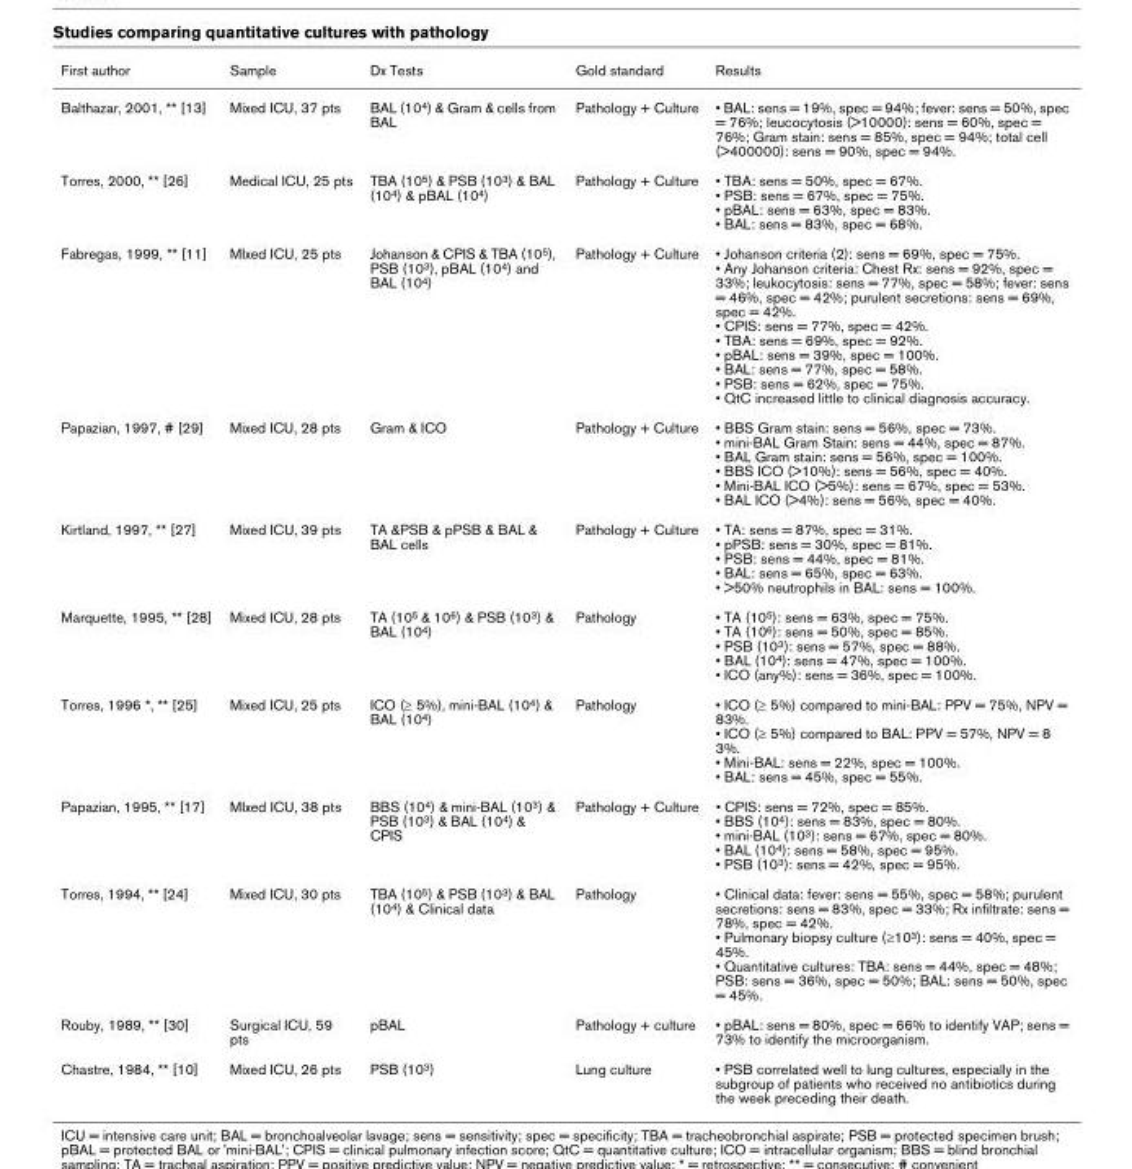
<table><thead><tr><td>First author</td><td>Sample</td><td>Dx Tests</td><td>Gold standard</td><td>Results</td></tr></thead><tbody><tr><td>Balthazar, 2001, ** [13]</td><td>Mixed ICU, 37 pts</td><td>BAL (10<sup>4</sup>) &amp; Gram &amp; cells from BAL</td><td>Pathology + Culture</td><td>• BAL: sens = 19%, spec = 94%; fever: sens = 50%, spec = 76%; leucocytosis (&gt;10000): sens = 60%, spec = 76%; Gram stain: sens = 85%, spec = 94%; total cell (&gt;400000): sens = 90%, spec = 94%.</td></tr><tr><td>Torres, 2000, ** [26]</td><td>Medical ICU, 25 pts</td><td>TBA (10<sup>5</sup>) &amp; PSB (10<sup>3</sup>) &amp; BAL (10<sup>4</sup>) &amp; pBAL (10<sup>4</sup>)</td><td>Pathology + Culture</td><td>• TBA: sens = 50%, spec = 67%. • PSB: sens = 67%, spec = 75%. • pBAL: sens = 63%, spec = 83%. • BAL: sens = 83%, spec = 68%.</td></tr><tr><td>Fabregas, 1999, ** [11]</td><td>MIxed ICU, 25 pts</td><td>Johanson &amp; CPIS &amp; TBA (10<sup>5</sup>), PSB (10<sup>3</sup>), pBAL (10<sup>4</sup>) and BAL (10<sup>4</sup>)</td><td>Pathology + Culture</td><td>• Johanson criteria (2): sens = 69%, spec = 75%. • Any Johanson criteria: Chest Rx: sens = 92%, spec = 33%; leukocytosis: sens = 77%, spec = 58%; fever: sens = 46%, spec = 42%; purulent secretions: sens = 69%, spec = 42%. • CPIS: sens = 77%, spec = 42%. • TBA: sens = 69%, spec = 92%. • pBAL: sens = 39%, spec = 100%. • BAL: sens = 77%, spec = 58%. • PSB: sens = 62%, spec = 75%. • QtC increased little to clinical diagnosis accuracy.</td></tr><tr><td>Papazian, 1997, # [29]</td><td>Mixed ICU, 28 pts</td><td>Gram &amp; ICO</td><td>Pathology + Culture</td><td>• BBS Gram stain: sens = 56%, spec = 73%. • mini-BAL Gram Stain: sens = 44%, spec = 87%. • BAL Gram stain: sens = 56%, spec = 100%. • BBS ICO (&gt;10%): sens = 56%, spec = 40%. • Mini-BAL ICO (&gt;5%): sens = 67%, spec = 53%. • BAL ICO (&gt;4%): sens = 56%, spec = 40%.</td></tr><tr><td>Kirtland, 1997, ** [27]</td><td>Mixed ICU, 39 pts</td><td>TA &amp;PSB &amp; pPSB &amp; BAL &amp; BAL cells</td><td>Pathology + Culture</td><td>• TA: sens = 87%, spec = 31%. • pPSB: sens = 30%, spec = 81%. • PSB: sens = 44%, spec = 81%. • BAL: sens = 65%, spec = 63%. • &gt;50% neutrophils in BAL: sens = 100%.</td></tr><tr><td>Marquette, 1995, ** [28]</td><td>Mixed ICU, 28 pts</td><td>TA (10<sup>5</sup> &amp; 10<sup>6</sup>) &amp; PSB (10<sup>3</sup>) &amp; BAL (10<sup>4</sup>)</td><td>Pathology</td><td>• TA (10<sup>5</sup>): sens = 63%, spec = 75%. • TA (10<sup>6</sup>): sens = 50%, spec = 85%. • PSB (10<sup>3</sup>): sens = 57%, spec = 88%. • BAL (10<sup>4</sup>): sens = 47%, spec = 100%. • ICO (any%): sens = 36%, spec = 100%.</td></tr><tr><td>Torres, 1996 *, ** [25]</td><td>Mixed ICU, 25 pts</td><td>ICO (≥ 5%), mini-BAL (10<sup>4</sup>) &amp; BAL (10<sup>4</sup>)</td><td>Pathology</td><td>• ICO (≥ 5%) compared to mini-BAL: PPV = 75%, NPV = 83%. • ICO (≥ 5%) compared to BAL: PPV = 57%, NPV = 8 3%. • Mini-BAL: sens = 22%, spec = 100%. • BAL: sens = 45%, spec = 55%.</td></tr><tr><td>Papazian, 1995, ** [17]</td><td>MIxed ICU, 38 pts</td><td>BBS (10<sup>4</sup>) &amp; mini-BAL (10<sup>3</sup>) &amp; PSB (10<sup>3</sup>) &amp; BAL (10<sup>4</sup>) &amp; CPIS</td><td>Pathology + Culture</td><td>• CPIS: sens = 72%, spec = 85%. • BBS (10<sup>4</sup>): sens = 83%, spec = 80%. • mini-BAL (10<sup>3</sup>): sens = 67%, spec = 80%. • BAL (10<sup>4</sup>): sens = 58%, spec = 95%. • PSB (10<sup>3</sup>): sens = 42%, spec = 95%.</td></tr><tr><td>Torres, 1994, ** [24]</td><td>Mixed ICU, 30 pts</td><td>TBA (10<sup>5</sup>) &amp; PSB (10<sup>3</sup>) &amp; BAL (10<sup>4</sup>) &amp; Clinical data</td><td>Pathology</td><td>• Clinical data: fever: sens = 55%, spec = 58%; purulent secretions: sens = 83%, spec = 33%; Rx infiltrate: sens = 78%, spec = 42%. • Pulmonary biopsy culture (≥10<sup>3</sup>): sens = 40%, spec = 45%. • Quantitative cultures: TBA: sens = 44%, spec = 48%; PSB: sens = 36%, spec = 50%; BAL: sens = 50%, spec = 45%.</td></tr><tr><td>Rouby, 1989, ** [30]</td><td>Surgical ICU, 59 pts</td><td>pBAL</td><td>Pathology + culture</td><td>• pBAL: sens = 80%, spec = 66% to identify VAP; sens = 73% to identify the microorganism.</td></tr><tr><td>Chastre, 1984, ** [10]</td><td>Mixed ICU, 26 pts</td><td>PSB (10<sup>3</sup>)</td><td>Lung culture</td><td>• PSB correlated well to lung cultures, especially in the subgroup of patients who received no antibiotics during the week preceding their death.</td></tr></tbody></table>